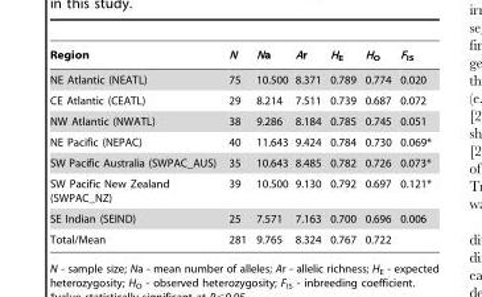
<table><thead><tr><td>Region</td><td>N</td><td>Na</td><td>Ar</td><td>H<sub>E</sub></td><td>H<sub>O</sub></td><td>F<sub>IS</sub></td></tr></thead><tbody><tr><td>NE Atlantic (NEATL)</td><td>75</td><td>10.500</td><td>8.371</td><td>0.789</td><td>0.774</td><td>0.020</td></tr><tr><td>CE Atlantic (CEATL)</td><td>29</td><td>8.214</td><td>7.511</td><td>0.739</td><td>0.687</td><td>0.072</td></tr><tr><td>NW Atlantic (NWATL)</td><td>38</td><td>9.286</td><td>8.184</td><td>0.785</td><td>0.745</td><td>0.051</td></tr><tr><td>NE Pacific (NEPAC)</td><td>40</td><td>11.643</td><td>9.424</td><td>0.784</td><td>0.730</td><td>0.069*</td></tr><tr><td>SW Pacific Australia (SWPAC_AUS)</td><td>35</td><td>10.643</td><td>8.485</td><td>0.782</td><td>0.726</td><td>0.073*</td></tr><tr><td>SW Pacific New Zealand (SWPAC_NZ)</td><td>39</td><td>10.500</td><td>9.130</td><td>0.792</td><td>0.697</td><td>0.121*</td></tr><tr><td>SE Indian (SEIND)</td><td>25</td><td>7.571</td><td>7.163</td><td>0.700</td><td>0.696</td><td>0.006</td></tr><tr><td>Total/Mean</td><td>281</td><td>9.765</td><td>8.324</td><td>0.767</td><td>0.722</td><td></td></tr></tbody></table>